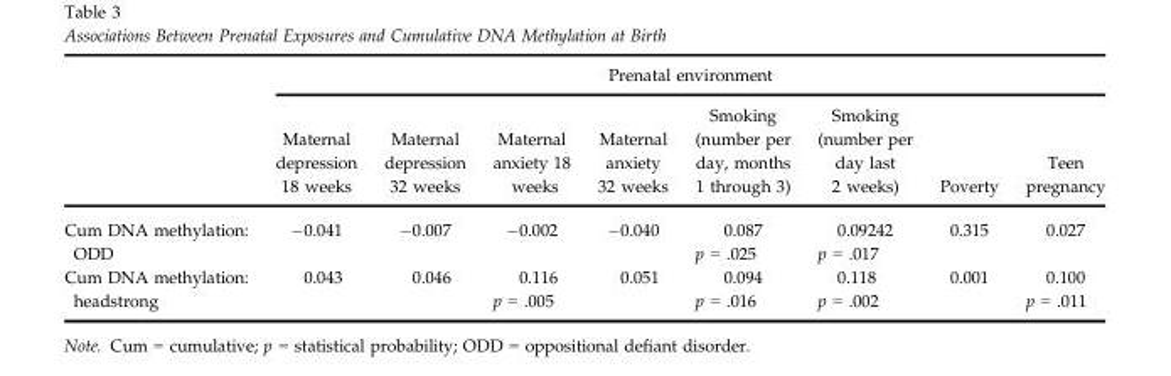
<table><thead><tr><td rowspan="2"></td><td colspan="8">Prenatal environment</td></tr><tr><td>Maternal depression 18 weeks</td><td>Maternal depression 32 weeks</td><td>Maternal anxiety 18 weeks</td><td>Maternal anxiety 32 weeks</td><td>Smoking (number per day, months 1 through 3)</td><td>Smoking (number per day last 2 weeks)</td><td>Poverty</td><td>Teen pregnancy</td></tr></thead><tbody><tr><td>Cum DNA methylation: ODD</td><td>−0.041</td><td>−0.007</td><td>−0.002</td><td>−0.040</td><td>0.087 p = .025</td><td>0.09242 p = .017</td><td>0.315</td><td>0.027</td></tr><tr><td>Cum DNA methylation: headstrong</td><td>0.043</td><td>0.046</td><td>0.116 p = .005</td><td>0.051</td><td>0.094 p = .016</td><td>0.118 p = .002</td><td>0.001</td><td>0.100 p = .011</td></tr></tbody></table>